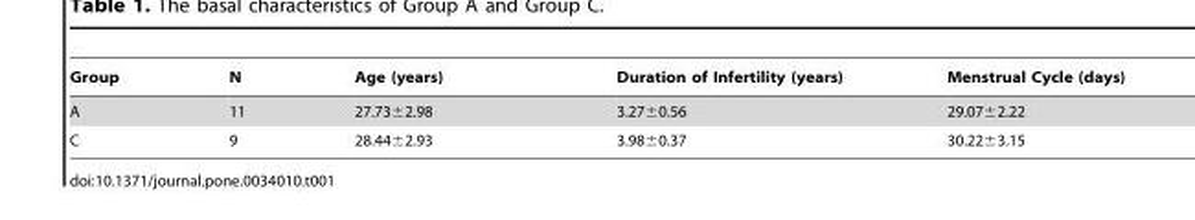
<table><thead><tr><td>Group</td><td>N</td><td>Age (years)</td><td>Duration of Infertility (years)</td><td>Menstrual Cycle (days)</td></tr></thead><tbody><tr><td>A</td><td>11</td><td>27.73±2.98</td><td>3.27±0.56</td><td>29.07±2.22</td></tr><tr><td>C</td><td>9</td><td>28.44±2.93</td><td>3.98±0.37</td><td>30.22±3.15</td></tr></tbody></table>